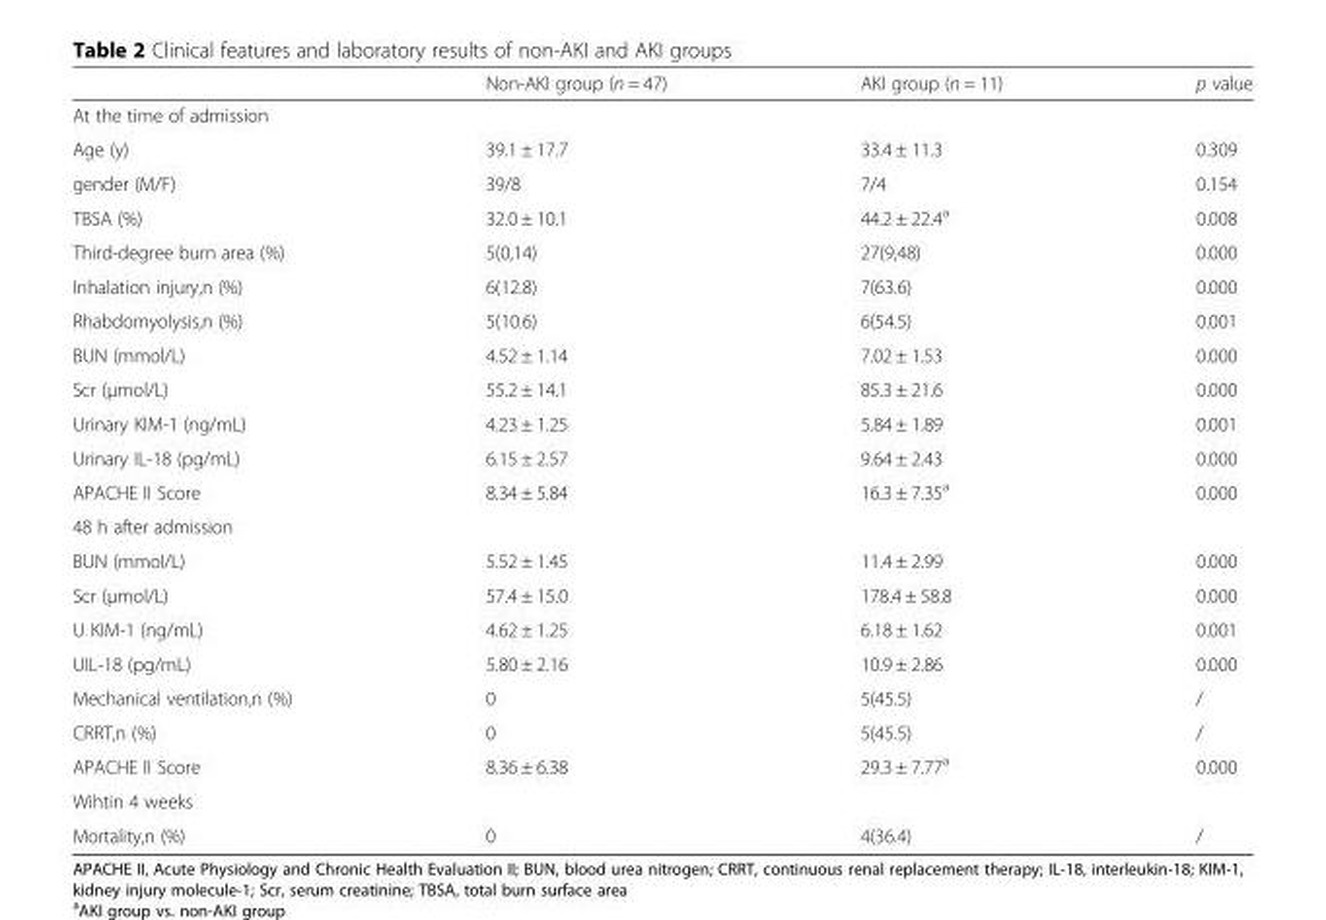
<table><thead><tr><td></td><td>Non-AKI group (n = 47)</td><td>AKI group (n = 11)</td><td>p value</td></tr></thead><tbody><tr><td colspan="4">At the time of admission</td></tr><tr><td>Age (y)</td><td>39.1 ± 17.7</td><td>33.4 ± 11.3</td><td>0.309</td></tr><tr><td>gender (M/F)</td><td>39/8</td><td>7/4</td><td>0.154</td></tr><tr><td>TBSA (%)</td><td>32.0 ± 10.1</td><td>44.2 ± 22.4<sup>a</sup></td><td>0.008</td></tr><tr><td>Third-degree burn area (%)</td><td>5(0,14)</td><td>27(9,48)</td><td>0.000</td></tr><tr><td>Inhalation injury,n (%)</td><td>6(12.8)</td><td>7(63.6)</td><td>0.000</td></tr><tr><td>Rhabdomyolysis,n (%)</td><td>5(10.6)</td><td>6(54.5)</td><td>0.001</td></tr><tr><td>BUN (mmol/L)</td><td>4.52 ± 1.14</td><td>7.02 ± 1.53</td><td>0.000</td></tr><tr><td>Scr (μmol/L)</td><td>55.2 ± 14.1</td><td>85.3 ± 21.6</td><td>0.000</td></tr><tr><td>Urinary KIM-1 (ng/mL)</td><td>4.23 ± 1.25</td><td>5.84 ± 1.89</td><td>0.001</td></tr><tr><td>Urinary IL-18 (pg/mL)</td><td>6.15 ± 2.57</td><td>9.64 ± 2.43</td><td>0.000</td></tr><tr><td>APACHE II Score</td><td>8.34 ± 5.84</td><td>16.3 ± 7.35<sup>a</sup></td><td>0.000</td></tr><tr><td colspan="4">48 h after admission</td></tr><tr><td>BUN (mmol/L)</td><td>5.52 ± 1.45</td><td>11.4 ± 2.99</td><td>0.000</td></tr><tr><td>Scr (μmol/L)</td><td>57.4 ± 15.0</td><td>178.4 ± 58.8</td><td>0.000</td></tr><tr><td>U KIM-1 (ng/mL)</td><td>4.62 ± 1.25</td><td>6.18 ± 1.62</td><td>0.001</td></tr><tr><td>UIL-18 (pg/mL)</td><td>5.80 ± 2.16</td><td>10.9 ± 2.86</td><td>0.000</td></tr><tr><td>Mechanical ventilation,n (%)</td><td>0</td><td>5(45.5)</td><td>/</td></tr><tr><td>CRRT,n (%)</td><td>0</td><td>5(45.5)</td><td>/</td></tr><tr><td>APACHE II Score</td><td>8.36 ± 6.38</td><td>29.3 ± 7.77<sup>a</sup></td><td>0.000</td></tr><tr><td colspan="4">Wihtin 4 weeks</td></tr><tr><td>Mortality,n (%)</td><td>0</td><td>4(36.4)</td><td>/</td></tr></tbody></table>